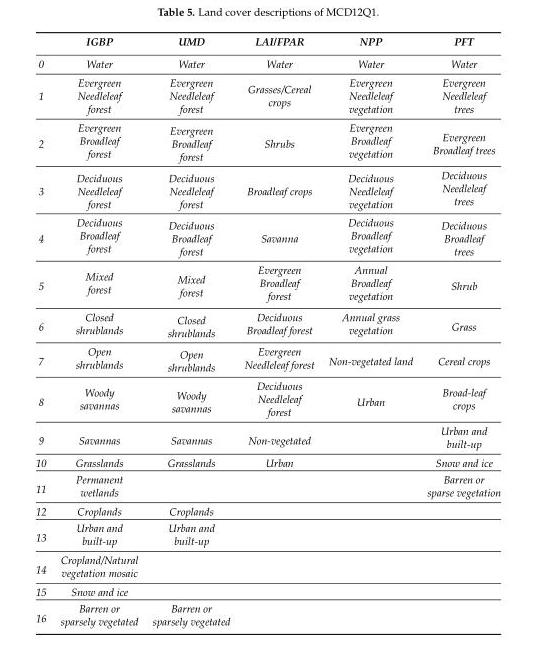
<table><thead><tr><td></td><td>IGBP</td><td>UMD</td><td>LAI/FPAR</td><td>NPP</td><td>PFT</td></tr></thead><tbody><tr><td>0</td><td>Water</td><td>Water</td><td>Water</td><td>Water</td><td>Water</td></tr><tr><td>1</td><td>Evergreen Needleleaf forest</td><td>Evergreen Needleleaf forest</td><td>Grasses/Cereal crops</td><td>Evergreen Needleleaf vegetation</td><td>Evergreen Needleleaf trees</td></tr><tr><td>2</td><td>Evergreen Broadleaf forest</td><td>Evergreen Broadleaf forest</td><td>Shrubs</td><td>Evergreen Broadleaf vegetation</td><td>Evergreen Broadleaf trees</td></tr><tr><td>3</td><td>Deciduous Needleleaf forest</td><td>Deciduous Needleleaf forest</td><td>Broadleaf crops</td><td>Deciduous Needleleaf vegetation</td><td>Deciduous Needleleaf trees</td></tr><tr><td>4</td><td>Deciduous Broadleaf forest</td><td>Deciduous Broadleaf forest</td><td>Savanna</td><td>Deciduous Broadleaf vegetation</td><td>Deciduous Broadleaf trees</td></tr><tr><td>5</td><td>Mixed forest</td><td>Mixed forest</td><td>Evergreen Broadleaf forest</td><td>Annual Broadleaf vegetation</td><td>Shrub</td></tr><tr><td>6</td><td>Closed shrublands</td><td>Closed shrublands</td><td>Deciduous Broadleaf forest</td><td>Annual grass vegetation</td><td>Grass</td></tr><tr><td>7</td><td>Open shrublands</td><td>Open shrublands</td><td>Evergreen Needleleaf forest</td><td>Non-vegetated land</td><td>Cereal crops</td></tr><tr><td>8</td><td>Woody savannas</td><td>Woody savannas</td><td>Deciduous Needleleaf forest</td><td>Urban</td><td>Broad-leaf crops</td></tr><tr><td>9</td><td>Savannas</td><td>Savannas</td><td>Non-vegetated</td><td></td><td>Urban and built-up</td></tr><tr><td>10</td><td>Grasslands</td><td>Grasslands</td><td>Urban</td><td></td><td>Snow and ice</td></tr><tr><td>11</td><td>Permanent wetlands</td><td></td><td></td><td></td><td>Barren or sparse vegetation</td></tr><tr><td>12</td><td>Croplands</td><td>Croplands</td><td></td><td></td><td></td></tr><tr><td>13</td><td>Urban and built-up</td><td>Urban and built-up</td><td></td><td></td><td></td></tr><tr><td>14</td><td>Cropland/Natural vegetation mosaic</td><td></td><td></td><td></td><td></td></tr><tr><td>15</td><td>Snow and ice</td><td></td><td></td><td></td><td></td></tr><tr><td>16</td><td>Barren or sparsely vegetated</td><td>Barren or sparsely vegetated</td><td></td><td></td><td></td></tr></tbody></table>